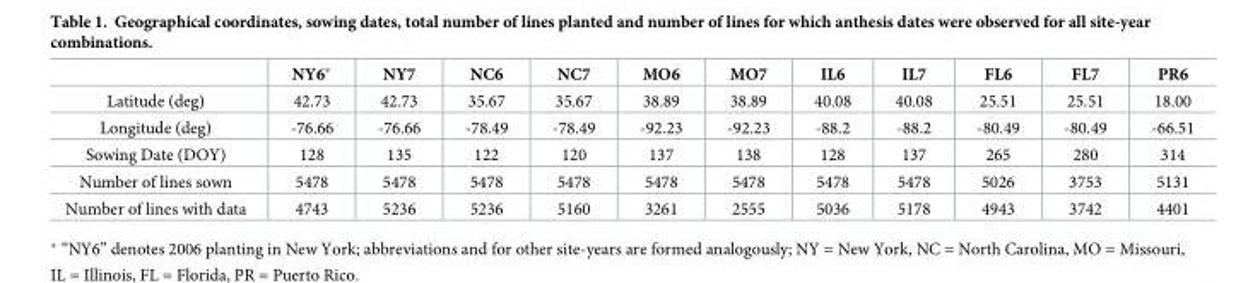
<table><thead><tr><td></td><td>NY6*</td><td>NY7</td><td>NC6</td><td>NC7</td><td>MO6</td><td>MO7</td><td>IL6</td><td>IL7</td><td>FL6</td><td>FL7</td><td>PR6</td></tr></thead><tbody><tr><td>Latitude (deg)</td><td>42.73</td><td>42.73</td><td>35.67</td><td>35.67</td><td>38.89</td><td>38.89</td><td>40.08</td><td>40.08</td><td>25.51</td><td>25.51</td><td>18.00</td></tr><tr><td>Longitude (deg)</td><td>-76.66</td><td>-76.66</td><td>-78.49</td><td>-78.49</td><td>-92.23</td><td>-92.23</td><td>-88.2</td><td>-88.2</td><td>-80.49</td><td>-80.49</td><td>-66.51</td></tr><tr><td>Sowing Date (DOY)</td><td>128</td><td>135</td><td>122</td><td>120</td><td>137</td><td>138</td><td>128</td><td>137</td><td>265</td><td>280</td><td>314</td></tr><tr><td>Number of lines sown</td><td>5478</td><td>5478</td><td>5478</td><td>5478</td><td>5478</td><td>5478</td><td>5478</td><td>5478</td><td>5026</td><td>3753</td><td>5131</td></tr><tr><td>Number of lines with data</td><td>4743</td><td>5236</td><td>5236</td><td>5160</td><td>3261</td><td>2555</td><td>5036</td><td>5178</td><td>4943</td><td>3742</td><td>4401</td></tr></tbody></table>